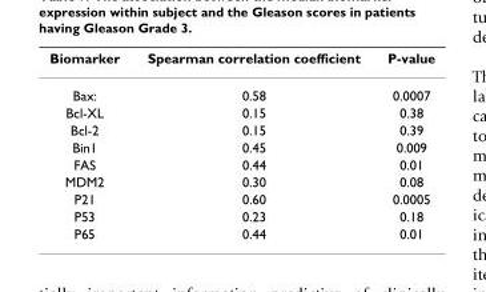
<table><thead><tr><td>Biomarker</td><td>Spearman correlation coefficient</td><td>P-value</td></tr></thead><tbody><tr><td>Bax:</td><td>0.58</td><td>0.0007</td></tr><tr><td>Bcl-XL</td><td>0.15</td><td>0.38</td></tr><tr><td>Bcl-2</td><td>0.15</td><td>0.39</td></tr><tr><td>Bin1</td><td>0.45</td><td>0.009</td></tr><tr><td>FAS</td><td>0.44</td><td>0.01</td></tr><tr><td>MDM2</td><td>0.30</td><td>0.08</td></tr><tr><td>P21</td><td>0.60</td><td>0.0005</td></tr><tr><td>P53</td><td>0.23</td><td>0.18</td></tr><tr><td>P65</td><td>0.44</td><td>0.01</td></tr></tbody></table>